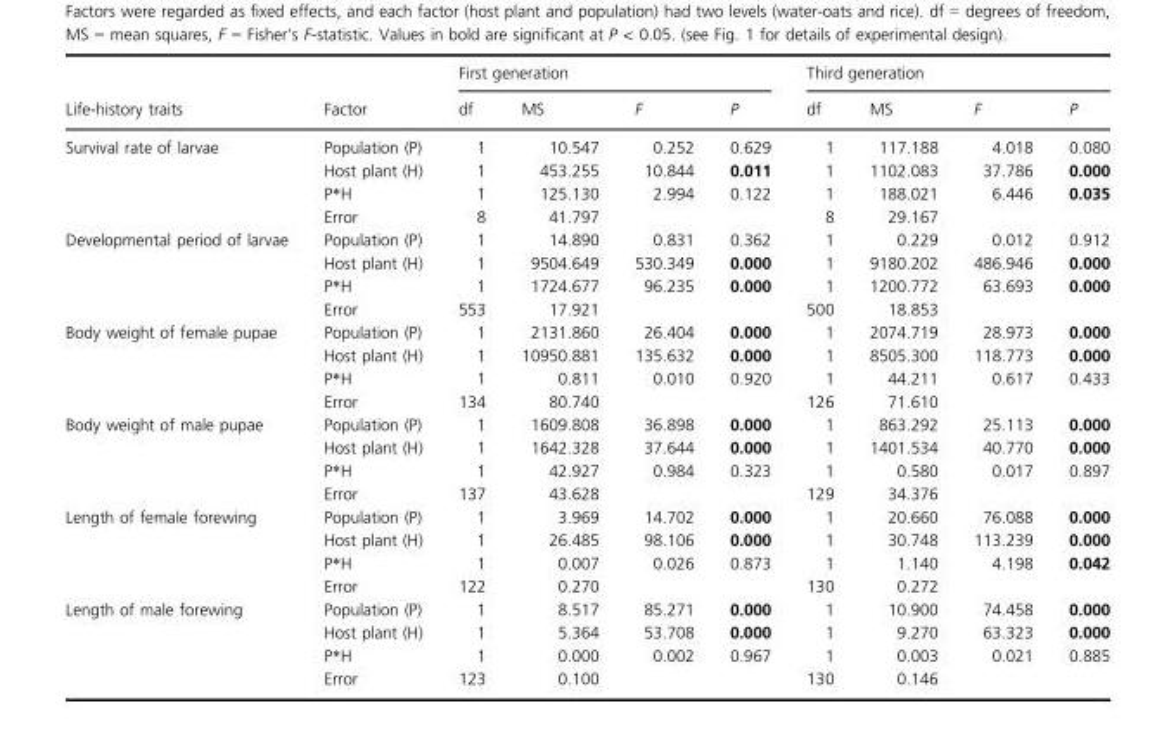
<table><thead><tr><td rowspan="2">Life-history traits</td><td rowspan="2">Factor</td><td colspan="4">First generation</td><td colspan="4">Third generation</td></tr><tr><td>df</td><td>MS</td><td>F</td><td>P</td><td>df</td><td>MS</td><td>F</td><td>P</td></tr></thead><tbody><tr><td rowspan="4">Survival rate of larvae</td><td>Population (P)</td><td>1</td><td>10.547</td><td>0.252</td><td>0.629</td><td>1</td><td>117.188</td><td>4.018</td><td>0.080</td></tr><tr><td>Host plant (H)</td><td>1</td><td>453.255</td><td>10.844</td><td>0.011</td><td>1</td><td>1102.083</td><td>37.786</td><td>0.000</td></tr><tr><td>P*H</td><td>1</td><td>125.130</td><td>2.994</td><td>0.122</td><td>1</td><td>188.021</td><td>6.446</td><td>0.035</td></tr><tr><td>Error</td><td>8</td><td>41.797</td><td></td><td></td><td>8</td><td>29.167</td><td></td><td></td></tr><tr><td rowspan="4">Developmental period of larvae</td><td>Population (P)</td><td>1</td><td>14.890</td><td>0.831</td><td>0.362</td><td>1</td><td>0.229</td><td>0.012</td><td>0.912</td></tr><tr><td>Host plant (H)</td><td>1</td><td>9504.649</td><td>530.349</td><td>0.000</td><td>1</td><td>9180.202</td><td>486.946</td><td>0.000</td></tr><tr><td>P*H</td><td>1</td><td>1724.677</td><td>96.235</td><td>0.000</td><td>1</td><td>1200.772</td><td>63.693</td><td>0.000</td></tr><tr><td>Error</td><td>553</td><td>17.921</td><td></td><td></td><td>500</td><td>18.853</td><td></td><td></td></tr><tr><td rowspan="4">Body weight of female pupae</td><td>Population (P)</td><td>1</td><td>2131.860</td><td>26.404</td><td>0.000</td><td>1</td><td>2074.719</td><td>28.973</td><td>0.000</td></tr><tr><td>Host plant (H)</td><td>1</td><td>10950.881</td><td>135.632</td><td>0.000</td><td>1</td><td>8505.300</td><td>118.773</td><td>0.000</td></tr><tr><td>P*H</td><td>1</td><td>0.811</td><td>0.010</td><td>0.920</td><td>1</td><td>44.211</td><td>0.617</td><td>0.433</td></tr><tr><td>Error</td><td>134</td><td>80.740</td><td></td><td></td><td>126</td><td>71.610</td><td></td><td></td></tr><tr><td rowspan="4">Body weight of male pupae</td><td>Population (P)</td><td>1</td><td>1609.808</td><td>36.898</td><td>0.000</td><td>1</td><td>863.292</td><td>25.113</td><td>0.000</td></tr><tr><td>Host plant (H)</td><td>1</td><td>1642.328</td><td>37.644</td><td>0.000</td><td>1</td><td>1401.534</td><td>40.770</td><td>0.000</td></tr><tr><td>P*H</td><td>1</td><td>42.927</td><td>0.984</td><td>0.323</td><td>1</td><td>0.580</td><td>0.017</td><td>0.897</td></tr><tr><td>Error</td><td>137</td><td>43.628</td><td></td><td></td><td>129</td><td>34.376</td><td></td><td></td></tr><tr><td rowspan="4">Length of female forewing</td><td>Population (P)</td><td>1</td><td>3.969</td><td>14.702</td><td>0.000</td><td>1</td><td>20.660</td><td>76.088</td><td>0.000</td></tr><tr><td>Host plant (H)</td><td>1</td><td>26.485</td><td>98.106</td><td>0.000</td><td>1</td><td>30.748</td><td>113.239</td><td>0.000</td></tr><tr><td>P*H</td><td>1</td><td>0.007</td><td>0.026</td><td>0.873</td><td>1</td><td>1.140</td><td>4.198</td><td>0.042</td></tr><tr><td>Error</td><td>122</td><td>0.270</td><td></td><td></td><td>130</td><td>0.272</td><td></td><td></td></tr><tr><td rowspan="4">Length of male forewing</td><td>Population (P)</td><td>1</td><td>8.517</td><td>85.271</td><td>0.000</td><td>1</td><td>10.900</td><td>74.458</td><td>0.000</td></tr><tr><td>Host plant (H)</td><td>1</td><td>5.364</td><td>53.708</td><td>0.000</td><td>1</td><td>9.270</td><td>63.323</td><td>0.000</td></tr><tr><td>P*H</td><td>1</td><td>0.000</td><td>0.002</td><td>0.967</td><td>1</td><td>0.003</td><td>0.021</td><td>0.885</td></tr><tr><td>Error</td><td>123</td><td>0.100</td><td></td><td></td><td>130</td><td>0.146</td><td></td><td></td></tr></tbody></table>